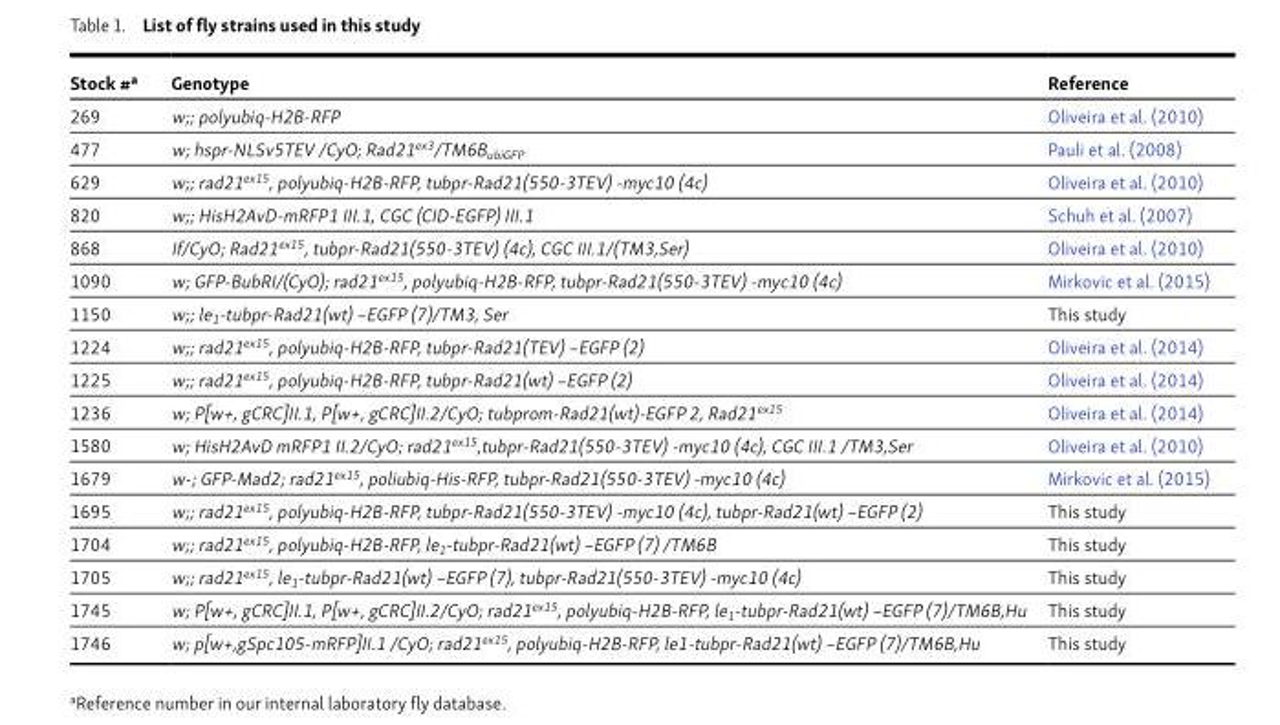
<table><thead><tr><td>Stock #<sup>a</sup></td><td>Genotype</td><td>Reference</td></tr></thead><tbody><tr><td>269</td><td>w;; polyubiq-H2B-RFP</td><td>Oliveira et al. (2010)</td></tr><tr><td>477</td><td>w; hspr-NLSv5TEV /CyO; Rad21<sup>ex3</sup>/TM6B<sub>ubiGFP</sub></td><td>Pauli et al. (2008)</td></tr><tr><td>629</td><td>w;; rad21<sup>ex15</sup>, polyubiq-H2B-RFP, tubpr-Rad21(550-3TEV) -myc10 (4c)</td><td>Oliveira et al. (2010)</td></tr><tr><td>820</td><td>w;; HisH2AvD-mRFP1 III.1, CGC (CID-EGFP) III.1</td><td>Schuh et al. (2007)</td></tr><tr><td>868</td><td>If/CyO; Rad21<sup>ex15</sup>, tubpr-Rad21(550-3TEV) (4c), CGC III.1/(TM3,Ser)</td><td>Oliveira et al. (2010)</td></tr><tr><td>1090</td><td>w; GFP-BubRI/(CyO); rad21<sup>ex15</sup>, polyubiq-H2B-RFP, tubpr-Rad21(550-3TEV) -myc10 (4c)</td><td>Mirkovic et al. (2015)</td></tr><tr><td>1150</td><td>w;; le<sub>1</sub>-tubpr-Rad21(wt) –EGFP (7)/TM3, Ser</td><td>This study</td></tr><tr><td>1224</td><td>w;; rad21<sup>ex15</sup>, polyubiq-H2B-RFP, tubpr-Rad21(TEV) –EGFP (2)</td><td>Oliveira et al. (2014)</td></tr><tr><td>1225</td><td>w;; rad21<sup>ex15</sup>, polyubiq-H2B-RFP, tubpr-Rad21(wt) –EGFP (2)</td><td>Oliveira et al. (2014)</td></tr><tr><td>1236</td><td>w; P[w+, gCRC]II.1, P[w+, gCRC]II.2/CyO; tubprom-Rad21(wt)-EGFP 2, Rad21<sup>ex15</sup></td><td>Oliveira et al. (2014)</td></tr><tr><td>1580</td><td>w; HisH2AvD mRFP1 II.2/CyO; rad21<sup>ex15</sup>,tubpr-Rad21(550-3TEV) -myc10 (4c), CGC III.1 /TM3,Ser</td><td>Oliveira et al. (2010)</td></tr><tr><td>1679</td><td>w-; GFP-Mad2; rad21<sup>ex15</sup>, poliubiq-His-RFP, tubpr-Rad21(550-3TEV) -myc10 (4c)</td><td>Mirkovic et al. (2015)</td></tr><tr><td>1695</td><td>w;; rad21<sup>ex15</sup>, polyubiq-H2B-RFP, tubpr-Rad21(550-3TEV) -myc10 (4c), tubpr-Rad21(wt) –EGFP (2)</td><td>This study</td></tr><tr><td>1704</td><td>w;; rad21<sup>ex15</sup>, polyubiq-H2B-RFP, le<sub>1</sub>-tubpr-Rad21(wt) –EGFP (7) /TM6B</td><td>This study</td></tr><tr><td>1705</td><td>w;; rad21<sup>ex15</sup>, le<sub>1</sub>-tubpr-Rad21(wt) –EGFP (7), tubpr-Rad21(550-3TEV) -myc10 (4c)</td><td>This study</td></tr><tr><td>1745</td><td>w; P[w+, gCRC]II.1, P[w+, gCRC]II.2/CyO; rad21<sup>ex15</sup>, polyubiq-H2B-RFP, le<sub>1</sub>-tubpr-Rad21(wt) –EGFP (7)/TM6B,Hu</td><td>This study</td></tr><tr><td>1746</td><td>w; p[w+,gSpc105-mRFP]II.1 /CyO; rad21<sup>ex15</sup>, polyubiq-H2B-RFP, le1-tubpr-Rad21(wt) –EGFP (7)/TM6B,Hu</td><td>This study</td></tr></tbody></table>